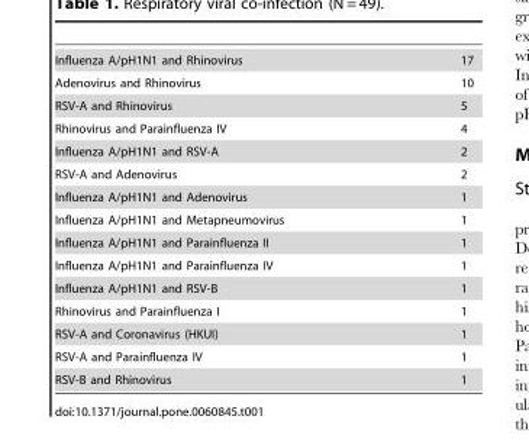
<table><tbody><tr><td>Influenza A/pH1N1 and Rhinovirus</td><td>17</td></tr><tr><td>Adenovirus and Rhinovirus</td><td>10</td></tr><tr><td>RSV-A and Rhinovirus</td><td>5</td></tr><tr><td>Rhinovirus and Parainfluenza IV</td><td>4</td></tr><tr><td>Influenza A/pH1N1 and RSV-A</td><td>2</td></tr><tr><td>RSV-A and Adenovirus</td><td>2</td></tr><tr><td>Influenza A/pH1N1 and Adenovirus</td><td>1</td></tr><tr><td>Influenza A/pH1N1 and Metapneumovirus</td><td>1</td></tr><tr><td>Influenza A/pH1N1 and Parainfluenza II</td><td>1</td></tr><tr><td>Influenza A/pH1N1 and Parainfluenza IV</td><td>1</td></tr><tr><td>Influenza A/pH1N1 and RSV-B</td><td>1</td></tr><tr><td>Rhinovirus and Parainfluenza I</td><td>1</td></tr><tr><td>RSV-A and Coronavirus (HKUI)</td><td>1</td></tr><tr><td>RSV-A and Parainfluenza IV</td><td>1</td></tr><tr><td>RSV-B and Rhinovirus</td><td>1</td></tr></tbody></table>